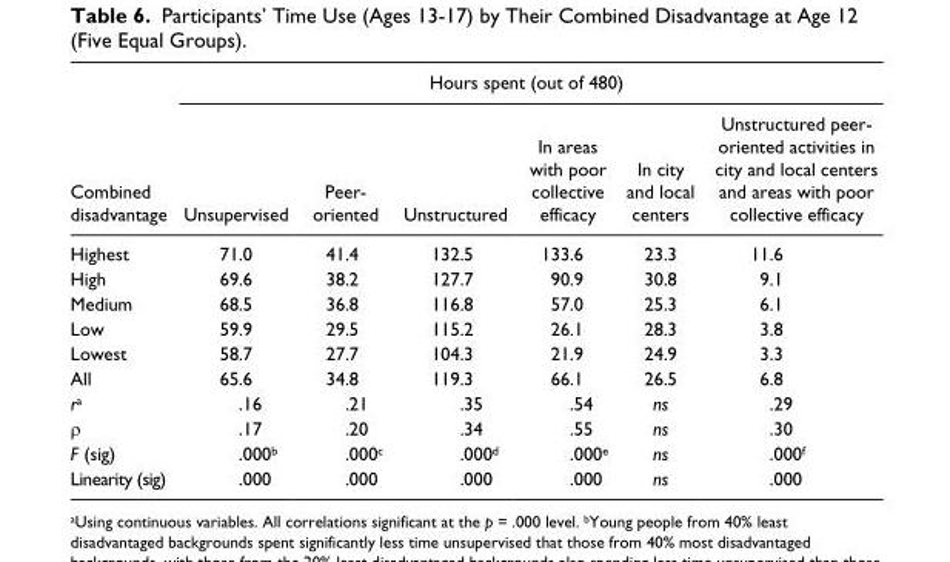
<table><thead><tr><td rowspan="2">Combined disadvantage</td><td colspan="6">Hours spent (out of 480)</td></tr><tr><td>Unsupervised</td><td>Peer- oriented</td><td>Unstructured</td><td>In areas with poor collective efficacy</td><td>In city and local centers</td><td>Unstructured peer- oriented activities in city and local centers and areas with poor collective efficacy</td></tr></thead><tbody><tr><td>Highest</td><td>71.0</td><td>41.4</td><td>132.5</td><td>133.6</td><td>23.3</td><td>11.6</td></tr><tr><td>High</td><td>69.6</td><td>38.2</td><td>127.7</td><td>90.9</td><td>30.8</td><td>9.1</td></tr><tr><td>Medium</td><td>68.5</td><td>36.8</td><td>116.8</td><td>57.0</td><td>25.3</td><td>6.1</td></tr><tr><td>Low</td><td>59.9</td><td>29.5</td><td>115.2</td><td>26.1</td><td>28.3</td><td>3.8</td></tr><tr><td>Lowest</td><td>58.7</td><td>27.7</td><td>104.3</td><td>21.9</td><td>24.9</td><td>3.3</td></tr><tr><td>All</td><td>65.6</td><td>34.8</td><td>119.3</td><td>66.1</td><td>26.5</td><td>6.8</td></tr><tr><td>r<sup>a</sup></td><td>.16</td><td>.21</td><td>.35</td><td>.54</td><td>ns</td><td>.29</td></tr><tr><td>ρ</td><td>.17</td><td>.20</td><td>.34</td><td>.55</td><td>ns</td><td>.30</td></tr><tr><td>F (sig)</td><td>.000<sup>b</sup></td><td>.000<sup>c</sup></td><td>.000<sup>d</sup></td><td>.000<sup>e</sup></td><td>ns</td><td>.000<sup>f</sup></td></tr><tr><td>Linearity (sig)</td><td>.000</td><td>.000</td><td>.000</td><td>.000</td><td>ns</td><td>.000</td></tr></tbody></table>